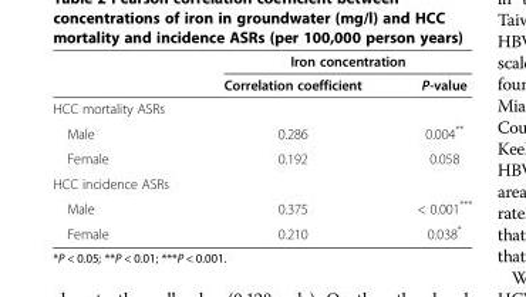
<table><thead><tr><td rowspan="2"></td><td colspan="2">Iron concentration</td></tr><tr><td>Correlation coefficient</td><td>P-value</td></tr></thead><tbody><tr><td colspan="3">HCC mortality ASRs</td></tr><tr><td>Male</td><td>0.286</td><td>0.004**</td></tr><tr><td>Female</td><td>0.192</td><td>0.058</td></tr><tr><td colspan="3">HCC incidence ASRs</td></tr><tr><td>Male</td><td>0.375</td><td>&lt; 0.001***</td></tr><tr><td>Female</td><td>0.210</td><td>0.038*</td></tr></tbody></table>